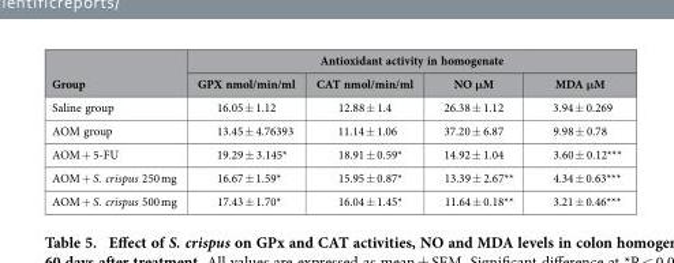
<table><thead><tr><td rowspan="2">Group</td><td colspan="4">Antioxidant activity in homogenate</td></tr><tr><td>GPX nmol/min/ml</td><td>CAT nmol/min/ml</td><td>NO μM</td><td>MDA μM</td></tr></thead><tbody><tr><td>Saline group</td><td>16.05 ± 1.12</td><td>12.88 ± 1.4</td><td>26.38 ± 1.12</td><td>3.94 ± 0.269</td></tr><tr><td>AOM group</td><td>13.45 ± 4.76393</td><td>11.14 ± 1.06</td><td>37.20 ± 6.87</td><td>9.98 ± 0.78</td></tr><tr><td>AOM + 5-FU</td><td>19.29 ± 3.145*</td><td>18.91 ± 0.59*</td><td>14.92 ± 1.04</td><td>3.60 ± 0.12***</td></tr><tr><td>AOM + S. crispus 250 mg</td><td>16.67 ± 1.59*</td><td>15.95 ± 0.87*</td><td>13.39 ± 2.67**</td><td>4.34 ± 0.63***</td></tr><tr><td>AOM + S. crispus 500 mg</td><td>17.43 ± 1.70*</td><td>16.04 ± 1.45*</td><td>11.64 ± 0.18**</td><td>3.21 ± 0.46***</td></tr></tbody></table>